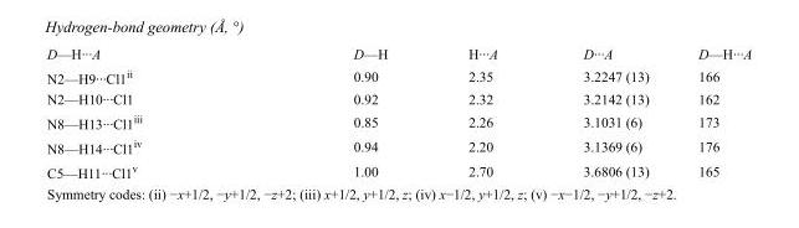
<table><tbody><tr><td>D—H···A</td><td>D—H</td><td>H···A</td><td>D···A</td><td>D—H···A</td></tr><tr><td>N2—H9···Cl1<sup>ii</sup></td><td>0.90</td><td>2.35</td><td>3.2247 (13)</td><td>166</td></tr><tr><td>N2—H10···Cl1</td><td>0.92</td><td>2.32</td><td>3.2142 (13)</td><td>162</td></tr><tr><td>N8—H13···Cl1<sup>iii</sup></td><td>0.85</td><td>2.26</td><td>3.1031 (6)</td><td>173</td></tr><tr><td>N8—H14···Cl1<sup>iv</sup></td><td>0.94</td><td>2.20</td><td>3.1369 (6)</td><td>176</td></tr><tr><td>C5—H11···Cl1<sup>v</sup></td><td>1.00</td><td>2.70</td><td>3.6806 (13)</td><td>165</td></tr></tbody></table>